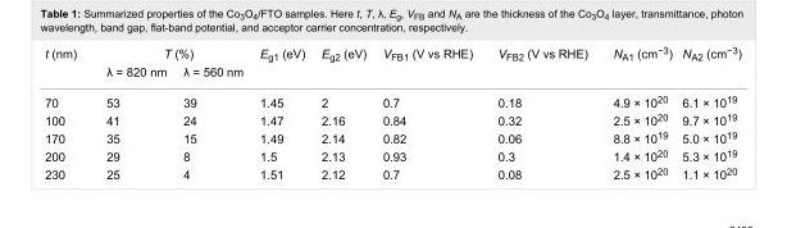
<table><tbody><tr><td rowspan="2">t (nm)</td><td colspan="2">T (%)</td><td rowspan="2">E<sub>g1</sub> (eV)</td><td rowspan="2">E<sub>g2</sub> (eV)</td><td rowspan="2">V<sub>FB1</sub> (V vs RHE)</td><td rowspan="2">V<sub>FB2</sub> (V vs RHE)</td><td rowspan="2">N<sub>A1</sub> (cm<sup>−3</sup>)</td><td rowspan="2">N<sub>A2</sub> (cm<sup>−3</sup>)</td></tr><tr><td>λ = 820 nm</td><td>λ = 560 nm</td></tr><tr><td>70</td><td>53</td><td>39</td><td>1.45</td><td>2</td><td>0.7</td><td>0.18</td><td>4.9 × 10<sup>20</sup></td><td>6.1 × 10<sup>19</sup></td></tr><tr><td>100</td><td>41</td><td>24</td><td>1.47</td><td>2.16</td><td>0.84</td><td>0.32</td><td>2.5 × 10<sup>20</sup></td><td>9.7 × 10<sup>19</sup></td></tr><tr><td>170</td><td>35</td><td>15</td><td>1.49</td><td>2.14</td><td>0.82</td><td>0.06</td><td>8.8 × 10<sup>19</sup></td><td>5.0 × 10<sup>19</sup></td></tr><tr><td>200</td><td>29</td><td>8</td><td>1.5</td><td>2.13</td><td>0.93</td><td>0.3</td><td>1.4 × 10<sup>20</sup></td><td>5.3 × 10<sup>19</sup></td></tr><tr><td>230</td><td>25</td><td>4</td><td>1.51</td><td>2.12</td><td>0.7</td><td>0.08</td><td>2.5 × 10<sup>20</sup></td><td>1.1 × 10<sup>20</sup></td></tr></tbody></table>